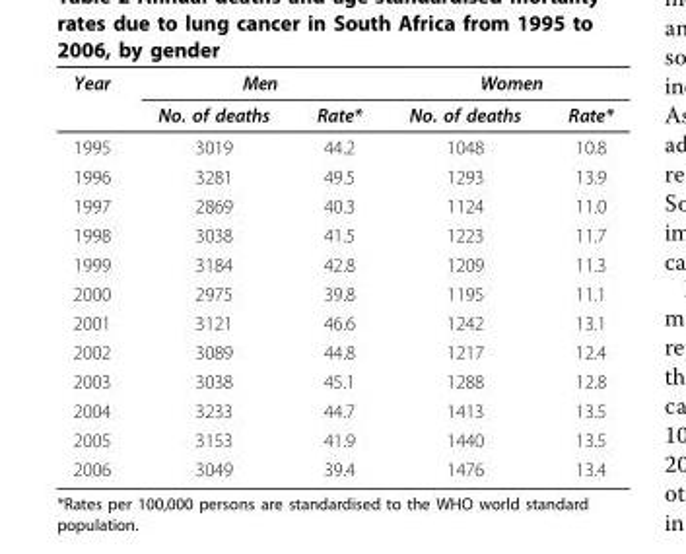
<table><thead><tr><td rowspan="2">Year</td><td colspan="2">Men</td><td colspan="2">Women</td></tr><tr><td>No. of deaths</td><td>Rate*</td><td>No. of deaths</td><td>Rate*</td></tr></thead><tbody><tr><td>1995</td><td>3019</td><td>44.2</td><td>1048</td><td>10.8</td></tr><tr><td>1996</td><td>3281</td><td>49.5</td><td>1293</td><td>13.9</td></tr><tr><td>1997</td><td>2869</td><td>40.3</td><td>1124</td><td>11.0</td></tr><tr><td>1998</td><td>3038</td><td>41.5</td><td>1223</td><td>11.7</td></tr><tr><td>1999</td><td>3184</td><td>42.8</td><td>1209</td><td>11.3</td></tr><tr><td>2000</td><td>2975</td><td>39.8</td><td>1195</td><td>11.1</td></tr><tr><td>2001</td><td>3121</td><td>46.6</td><td>1242</td><td>13.1</td></tr><tr><td>2002</td><td>3089</td><td>44.8</td><td>1217</td><td>12.4</td></tr><tr><td>2003</td><td>3038</td><td>45.1</td><td>1288</td><td>12.8</td></tr><tr><td>2004</td><td>3233</td><td>44.7</td><td>1413</td><td>13.5</td></tr><tr><td>2005</td><td>3153</td><td>41.9</td><td>1440</td><td>13.5</td></tr><tr><td>2006</td><td>3049</td><td>39.4</td><td>1476</td><td>13.4</td></tr></tbody></table>